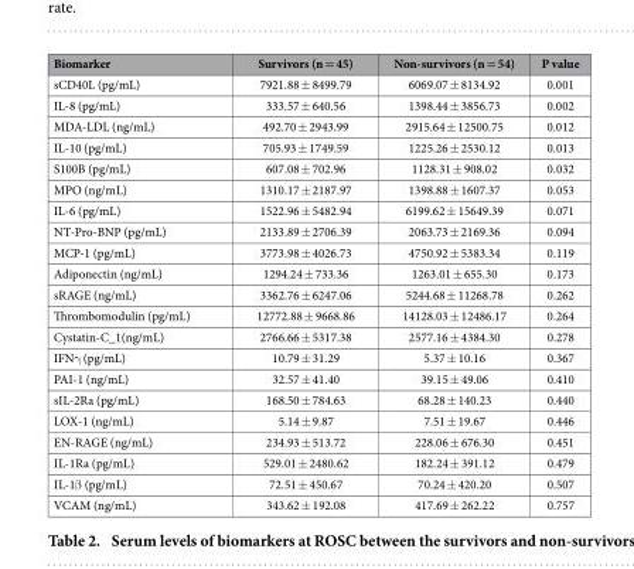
<table><thead><tr><td>Biomarker</td><td>Survivors (n = 45)</td><td>Non-survivors (n = 54)</td><td>P value</td></tr></thead><tbody><tr><td>sCD40L (pg/mL)</td><td>7921.88 ± 8499.79</td><td>6069.07 ± 8134.92</td><td>0.001</td></tr><tr><td>IL-8 (pg/mL)</td><td>333.57 ± 640.56</td><td>1398.44 ± 3856.73</td><td>0.002</td></tr><tr><td>MDA-LDL (ng/mL)</td><td>492.70 ± 2943.99</td><td>2915.64 ± 12500.75</td><td>0.012</td></tr><tr><td>IL-10 (pg/mL)</td><td>705.93 ± 1749.59</td><td>1225.26 ± 2530.12</td><td>0.013</td></tr><tr><td>S100B (pg/mL)</td><td>607.08 ± 702.96</td><td>1128.31 ± 908.02</td><td>0.032</td></tr><tr><td>MPO (ng/mL)</td><td>1310.17 ± 2187.97</td><td>1398.88 ± 1607.37</td><td>0.053</td></tr><tr><td>IL-6 (pg/mL)</td><td>1522.96 ± 5482.94</td><td>6199.62 ± 15649.39</td><td>0.071</td></tr><tr><td>NT-Pro-BNP (pg/mL)</td><td>2133.89 ± 2706.39</td><td>2063.73 ± 2169.36</td><td>0.094</td></tr><tr><td>MCP-1 (pg/mL)</td><td>3773.98 ± 4026.73</td><td>4750.92 ± 5383.34</td><td>0.119</td></tr><tr><td>Adiponectin (ng/mL)</td><td>1294.24 ± 733.36</td><td>1263.01 ± 655.30</td><td>0.173</td></tr><tr><td>sRAGE (ng/mL)</td><td>3362.76 ± 6247.06</td><td>5244.68 ± 11268.78</td><td>0.262</td></tr><tr><td>Thrombomodulin (pg/mL)</td><td>12772.88 ± 9668.86</td><td>14128.03 ± 12486.17</td><td>0.264</td></tr><tr><td>Cystatin-C_1(ng/mL)</td><td>2766.66 ± 5317.38</td><td>2577.16 ± 4384.30</td><td>0.278</td></tr><tr><td>IFNγ (pg/mL)</td><td>10.79 ± 31.29</td><td>5.37 ± 10.16</td><td>0.367</td></tr><tr><td>PAI-1 (ng/mL)</td><td>32.57 ± 41.40</td><td>39.15 ± 49.06</td><td>0.410</td></tr><tr><td>sIL-2Ra (pg/mL)</td><td>168.50 ± 784.63</td><td>68.28 ± 140.23</td><td>0.440</td></tr><tr><td>LOX-1 (ng/mL)</td><td>5.14 ± 9.87</td><td>7.51 ± 19.67</td><td>0.446</td></tr><tr><td>EN-RAGE (ng/mL)</td><td>234.93 ± 513.72</td><td>228.06 ± 676.30</td><td>0.451</td></tr><tr><td>IL-1Ra (pg/mL)</td><td>529.01 ± 2480.62</td><td>182.24 ± 391.12</td><td>0.479</td></tr><tr><td>IL-1β (pg/mL)</td><td>72.51 ± 450.67</td><td>70.24 ± 420.20</td><td>0.507</td></tr><tr><td>VCAM (ng/mL)</td><td>343.62 ± 192.08</td><td>417.69 ± 262.22</td><td>0.757</td></tr></tbody></table>